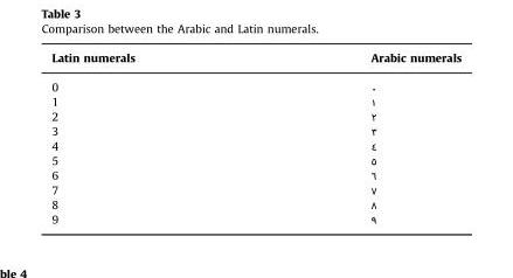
<table><thead><tr><td>Latin numerals</td><td>Arabic numerals</td></tr></thead><tbody><tr><td>0</td><td>٠</td></tr><tr><td>1</td><td>١</td></tr><tr><td>2</td><td>٢</td></tr><tr><td>3</td><td>٣</td></tr><tr><td>4</td><td>٤</td></tr><tr><td>5</td><td>٥</td></tr><tr><td>6</td><td>٦</td></tr><tr><td>7</td><td>٧</td></tr><tr><td>8</td><td>٨</td></tr><tr><td>9</td><td>٩</td></tr></tbody></table>